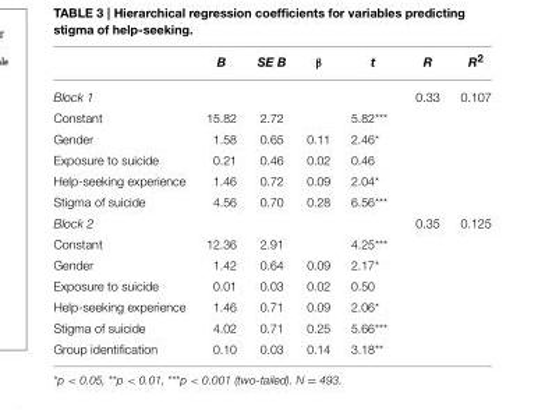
<table><thead><tr><td></td><td>B</td><td>SE B</td><td>β</td><td>t</td><td>R</td><td>R<sup>2</sup></td></tr></thead><tbody><tr><td>Block 1</td><td></td><td></td><td></td><td></td><td>0.33</td><td>0.107</td></tr><tr><td>Constant</td><td>15.82</td><td>2.72</td><td></td><td>5.82***</td><td></td><td></td></tr><tr><td>Gender</td><td>1.58</td><td>0.65</td><td>0.11</td><td>2.46*</td><td></td><td></td></tr><tr><td>Exposure to suicide</td><td>0.21</td><td>0.46</td><td>0.02</td><td>0.46</td><td></td><td></td></tr><tr><td>Help-seeking experience</td><td>1.46</td><td>0.72</td><td>0.09</td><td>2.04*</td><td></td><td></td></tr><tr><td>Stigma of suicide</td><td>4.56</td><td>0.70</td><td>0.28</td><td>6.56***</td><td></td><td></td></tr><tr><td>Block 2</td><td></td><td></td><td></td><td></td><td>0.35</td><td>0.125</td></tr><tr><td>Constant</td><td>12.36</td><td>2.91</td><td></td><td>4.25***</td><td></td><td></td></tr><tr><td>Gender</td><td>1.42</td><td>0.64</td><td>0.09</td><td>2.17*</td><td></td><td></td></tr><tr><td>Exposure to suicide</td><td>0.01</td><td>0.03</td><td>0.02</td><td>0.50</td><td></td><td></td></tr><tr><td>Help-seeking experience</td><td>1.46</td><td>0.71</td><td>0.09</td><td>2.06*</td><td></td><td></td></tr><tr><td>Stigma of suicide</td><td>4.02</td><td>0.71</td><td>0.25</td><td>5.66***</td><td></td><td></td></tr><tr><td>Group identification</td><td>0.10</td><td>0.03</td><td>0.14</td><td>3.18**</td><td></td><td></td></tr></tbody></table>